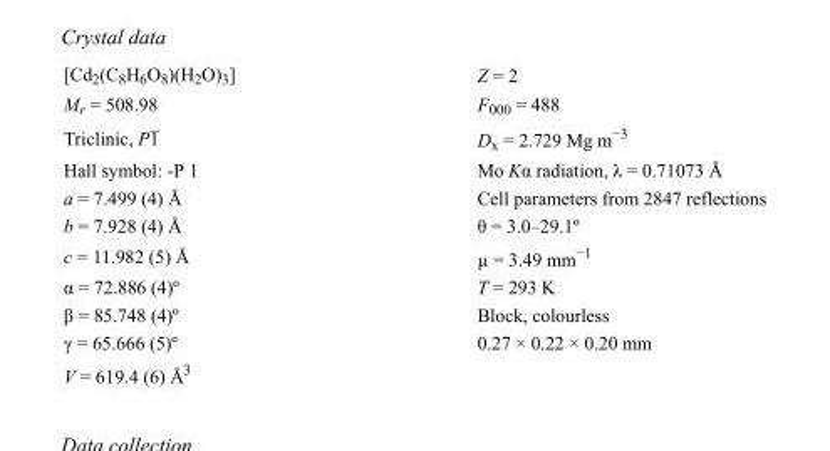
<table><tbody><tr><td>[Cd<sub>2</sub>(C<sub>8</sub>H<sub>6</sub>O<sub>8</sub>)(H<sub>2</sub>O)<sub>3</sub>]</td><td>Z = 2</td></tr><tr><td>M<sub>r</sub> = 508.98</td><td>F000 = 488</td></tr><tr><td>Triclinic, P1</td><td>D<sub>x</sub> = 2.729 Mg m<sup>−3</sup></td></tr><tr><td>Hall symbol: -P 1</td><td>Mo Kα radiation, λ = 0.71073 Å</td></tr><tr><td>a = 7.499 (4) Å</td><td>Cell parameters from 2847 reflections</td></tr><tr><td>b = 7.928 (4) Å</td><td>θ = 3.0–29.1º</td></tr><tr><td>c = 11.982 (5) Å</td><td>µ = 3.49 mm<sup>−1</sup></td></tr><tr><td>α = 72.886 (4)º</td><td>T = 293 K</td></tr><tr><td>β = 85.748 (4)º</td><td>Block, colourless</td></tr><tr><td>γ = 65.666 (5)º</td><td>0.27 × 0.22 × 0.20 mm</td></tr><tr><td>V = 619.4 (6) Å<sup>3</sup></td><td></td></tr></tbody></table>